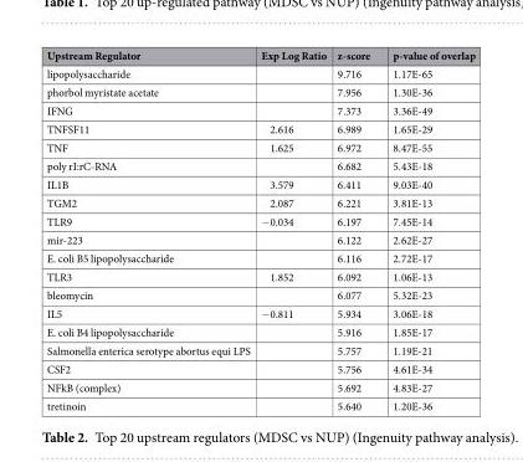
<table><thead><tr><td>Upstream Regulator</td><td>Exp Log Ratio</td><td>z-score</td><td>p-value of overlap</td></tr></thead><tbody><tr><td>lipopolysaccharide</td><td></td><td>9.716</td><td>1.17E-65</td></tr><tr><td>phorbol myristate acetate</td><td></td><td>7.956</td><td>1.30E-36</td></tr><tr><td>IFNG</td><td></td><td>7.373</td><td>3.36E-49</td></tr><tr><td>TNFSF11</td><td>2.616</td><td>6.989</td><td>1.65E-29</td></tr><tr><td>TNF</td><td>1.625</td><td>6.972</td><td>8.47E-55</td></tr><tr><td>poly rI:rC-RNA</td><td></td><td>6.682</td><td>5.43E-18</td></tr><tr><td>IL1B</td><td>3.579</td><td>6.411</td><td>9.03E-40</td></tr><tr><td>TGM2</td><td>2.087</td><td>6.221</td><td>3.81E-13</td></tr><tr><td>TLR9</td><td>−0.034</td><td>6.197</td><td>7.45E-14</td></tr><tr><td>mir-223</td><td></td><td>6.122</td><td>2.62E-27</td></tr><tr><td>E. coli B5 lipopolysaccharide</td><td></td><td>6.116</td><td>2.72E-17</td></tr><tr><td>TLR3</td><td>1.852</td><td>6.092</td><td>1.06E-13</td></tr><tr><td>bleomycin</td><td></td><td>6.077</td><td>5.32E-23</td></tr><tr><td>IL5</td><td>−0.811</td><td>5.934</td><td>3.06E-18</td></tr><tr><td>E. coli B4 lipopolysaccharide</td><td></td><td>5.916</td><td>1.85E-17</td></tr><tr><td>Salmonella enterica serotype abortus equi LPS</td><td></td><td>5.757</td><td>1.19E-21</td></tr><tr><td>CSF2</td><td></td><td>5.756</td><td>4.61E-34</td></tr><tr><td>NFkB (complex)</td><td></td><td>5.692</td><td>4.83E-27</td></tr><tr><td>tretinoin</td><td></td><td>5.640</td><td>1.20E-36</td></tr></tbody></table>